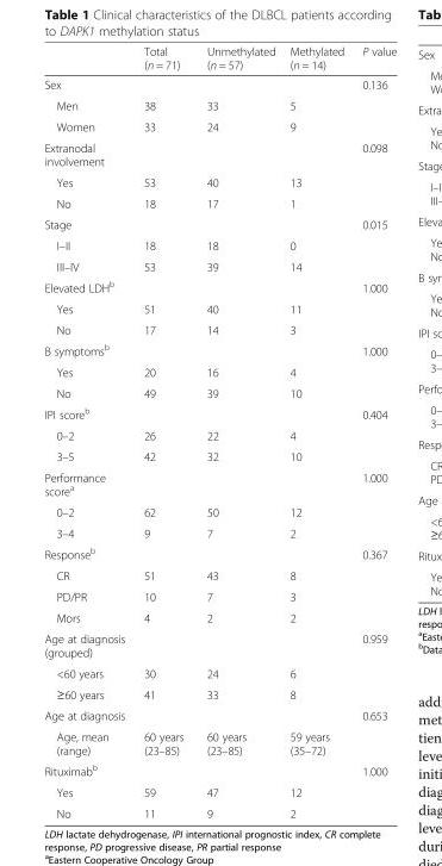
<table><thead><tr><td></td><td>Total (n = 71)</td><td>Unmethylated (n = 57)</td><td>Methylated (n = 14)</td><td>P value</td></tr></thead><tbody><tr><td>Sex</td><td></td><td></td><td></td><td>0.136</td></tr><tr><td>Men</td><td>38</td><td>33</td><td>5</td><td></td></tr><tr><td>Women</td><td>33</td><td>24</td><td>9</td><td></td></tr><tr><td>Extranodal involvement</td><td></td><td></td><td></td><td>0.098</td></tr><tr><td>Yes</td><td>53</td><td>40</td><td>13</td><td></td></tr><tr><td>No</td><td>18</td><td>17</td><td>1</td><td></td></tr><tr><td>Stage</td><td></td><td></td><td></td><td>0.015</td></tr><tr><td>I–II</td><td>18</td><td>18</td><td>0</td><td></td></tr><tr><td>III–IV</td><td>53</td><td>39</td><td>14</td><td></td></tr><tr><td>Elevated LDH<sup>b</sup></td><td></td><td></td><td></td><td>1.000</td></tr><tr><td>Yes</td><td>51</td><td>40</td><td>11</td><td></td></tr><tr><td>No</td><td>17</td><td>14</td><td>3</td><td></td></tr><tr><td>B symptoms<sup>b</sup></td><td></td><td></td><td></td><td>1.000</td></tr><tr><td>Yes</td><td>20</td><td>16</td><td>4</td><td></td></tr><tr><td>No</td><td>49</td><td>39</td><td>10</td><td></td></tr><tr><td>IPI score<sup>b</sup></td><td></td><td></td><td></td><td>0.404</td></tr><tr><td>0–2</td><td>26</td><td>22</td><td>4</td><td></td></tr><tr><td>3–5</td><td>42</td><td>32</td><td>10</td><td></td></tr><tr><td>Performance score<sup>a</sup></td><td></td><td></td><td></td><td>1.000</td></tr><tr><td>0–2</td><td>62</td><td>50</td><td>12</td><td></td></tr><tr><td>3–4</td><td>9</td><td>7</td><td>2</td><td></td></tr><tr><td>Response<sup>b</sup></td><td></td><td></td><td></td><td>0.367</td></tr><tr><td>CR</td><td>51</td><td>43</td><td>8</td><td></td></tr><tr><td>PD/PR</td><td>10</td><td>7</td><td>3</td><td></td></tr><tr><td>Mors</td><td>4</td><td>2</td><td>2</td><td></td></tr><tr><td>Age at diagnosis (grouped)</td><td></td><td></td><td></td><td>0.959</td></tr><tr><td>&lt;60 years</td><td>30</td><td>24</td><td>6</td><td></td></tr><tr><td>≥60 years</td><td>41</td><td>33</td><td>8</td><td></td></tr><tr><td>Age at diagnosis</td><td></td><td></td><td></td><td>0.653</td></tr><tr><td>Age, mean (range)</td><td>60 years (23–85)</td><td>60 years (23–85)</td><td>59 years (35–72)</td><td></td></tr><tr><td>Rituximab<sup>b</sup></td><td></td><td></td><td></td><td>1.000</td></tr><tr><td>Yes</td><td>59</td><td>47</td><td>12</td><td></td></tr><tr><td>No</td><td>11</td><td>9</td><td>2</td><td></td></tr></tbody></table>